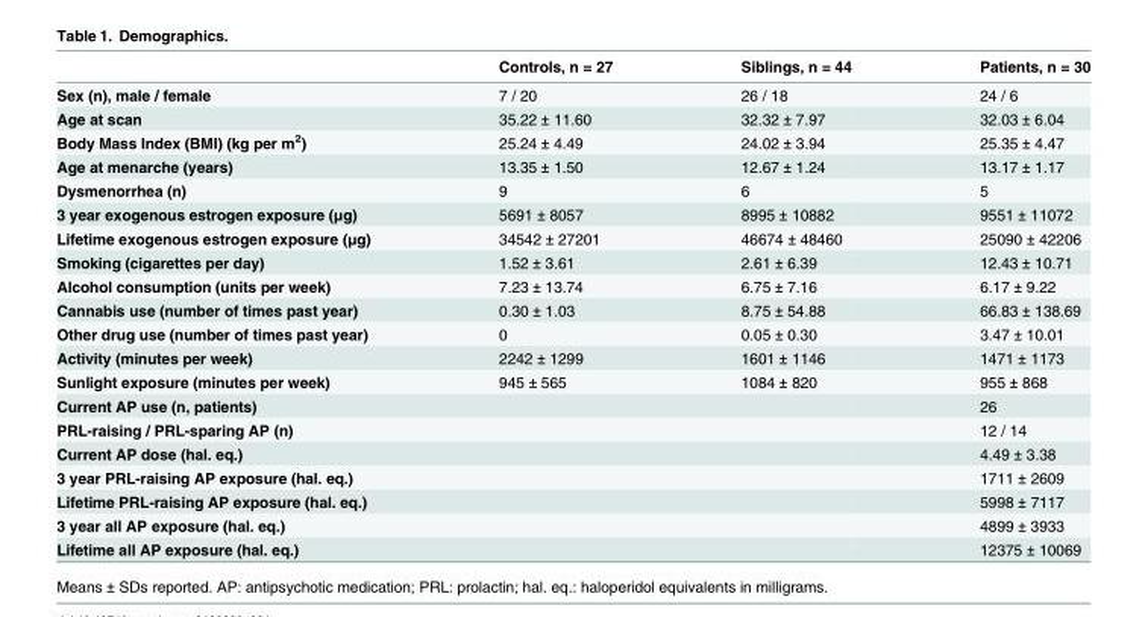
<table><thead><tr><td></td><td>Controls, n = 27</td><td>Siblings, n = 44</td><td>Patients, n = 30</td></tr></thead><tbody><tr><td>Sex (n), male / female</td><td>7 / 20</td><td>26 / 18</td><td>24 / 6</td></tr><tr><td>Age at scan</td><td>35.22 ± 11.60</td><td>32.32 ± 7.97</td><td>32.03 ± 6.04</td></tr><tr><td>Body Mass Index (BMI) (kg per m<sup>2</sup>)</td><td>25.24 ± 4.49</td><td>24.02 ± 3.94</td><td>25.35 ± 4.47</td></tr><tr><td>Age at menarche (years)</td><td>13.35 ± 1.50</td><td>12.67 ± 1.24</td><td>13.17 ± 1.17</td></tr><tr><td>Dysmenorrhea (n)</td><td>9</td><td>6</td><td>5</td></tr><tr><td>3 year exogenous estrogen exposure (μg)</td><td>5691 ± 8057</td><td>8995 ± 10882</td><td>9551 ± 11072</td></tr><tr><td>Lifetime exogenous estrogen exposure (μg)</td><td>34542 ± 27201</td><td>46674 ± 48460</td><td>25090 ± 42206</td></tr><tr><td>Smoking (cigarettes per day)</td><td>1.52 ± 3.61</td><td>2.61 ± 6.39</td><td>12.43 ± 10.71</td></tr><tr><td>Alcohol consumption (units per week)</td><td>7.23 ± 13.74</td><td>6.75 ± 7.16</td><td>6.17 ± 9.22</td></tr><tr><td>Cannabis use (number of times past year)</td><td>0.30 ± 1.03</td><td>8.75 ± 54.88</td><td>66.83 ± 138.69</td></tr><tr><td>Other drug use (number of times past year)</td><td>0</td><td>0.05 ± 0.30</td><td>3.47 ± 10.01</td></tr><tr><td>Activity (minutes per week)</td><td>2242 ± 1299</td><td>1601 ± 1146</td><td>1471 ± 1173</td></tr><tr><td>Sunlight exposure (minutes per week)</td><td>945 ± 565</td><td>1084 ± 820</td><td>955 ± 868</td></tr><tr><td>Current AP use (n, patients)</td><td></td><td></td><td>26</td></tr><tr><td>PRL-raising / PRL-sparing AP (n)</td><td></td><td></td><td>12 / 14</td></tr><tr><td>Current AP dose (hal. eq.)</td><td></td><td></td><td>4.49 ± 3.38</td></tr><tr><td>3 year PRL-raising AP exposure (hal. eq.)</td><td></td><td></td><td>1711 ± 2609</td></tr><tr><td>Lifetime PRL-raising AP exposure (hal. eq.)</td><td></td><td></td><td>5998 ± 7117</td></tr><tr><td>3 year all AP exposure (hal. eq.)</td><td></td><td></td><td>4899 ± 3933</td></tr><tr><td>Lifetime all AP exposure (hal. eq.)</td><td></td><td></td><td>12375 ± 10069</td></tr></tbody></table>